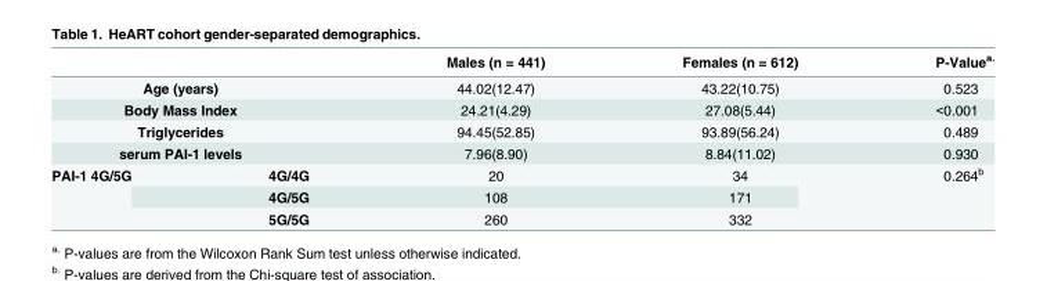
<table><thead><tr><td></td><td></td><td>Males (n = 441)</td><td>Females (n = 612)</td><td>P-Value<sup>a.</sup></td></tr></thead><tbody><tr><td colspan="2">Age (years)</td><td>44.02(12.47)</td><td>43.22(10.75)</td><td>0.523</td></tr><tr><td colspan="2">Body Mass Index</td><td>24.21(4.29)</td><td>27.08(5.44)</td><td>&lt;0.001</td></tr><tr><td colspan="2">Triglycerides</td><td>94.45(52.85)</td><td>93.89(56.24)</td><td>0.489</td></tr><tr><td colspan="2">serum PAI-1 levels</td><td>7.96(8.90)</td><td>8.84(11.02)</td><td>0.930</td></tr><tr><td rowspan="3">PAI-1 4G/5G</td><td>4G/4G</td><td>20</td><td>34</td><td rowspan="3">0.264<sup>b</sup></td></tr><tr><td>4G/5G</td><td>108</td><td>171</td></tr><tr><td>5G/5G</td><td>260</td><td>332</td></tr></tbody></table>